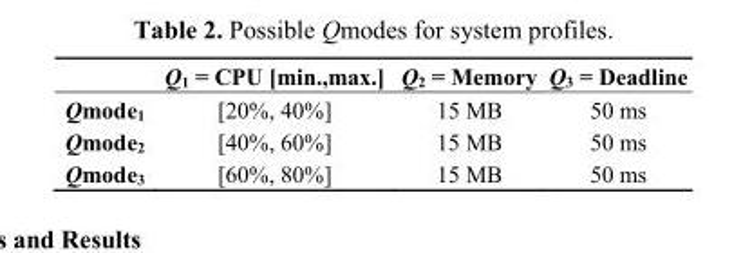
<table><thead><tr><td></td><td>Q<sub>1</sub> = CPU [min.,max.]</td><td>Q<sub>2</sub> = Memory</td><td>Q<sub>3</sub> = Deadline</td></tr></thead><tbody><tr><td>Qmode<sub>1</sub></td><td>[20%, 40%]</td><td>15 MB</td><td>50 ms</td></tr><tr><td>Qmode<sub>2</sub></td><td>[40%, 60%]</td><td>15 MB</td><td>50 ms</td></tr><tr><td>Qmode<sub>3</sub></td><td>[60%, 80%]</td><td>15 MB</td><td>50 ms</td></tr></tbody></table>